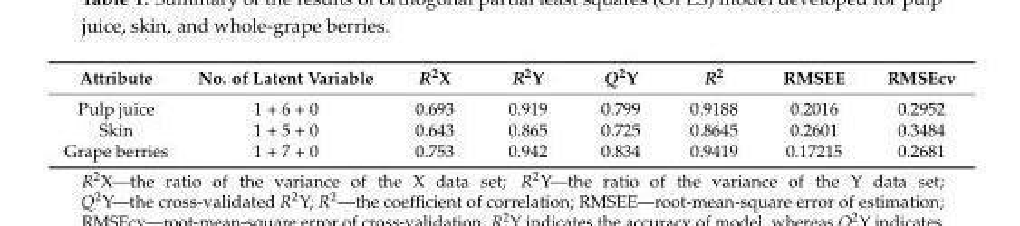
<table><thead><tr><td>Attribute</td><td>No. of Latent Variable</td><td>R<sup>2</sup>X</td><td>R<sup>2</sup>Y</td><td>Q<sup>2</sup>Y</td><td>R<sup>2</sup></td><td>RMSEE</td><td>RMSEcv</td></tr></thead><tbody><tr><td>Pulp juice</td><td>1 + 6 + 0</td><td>0.693</td><td>0.919</td><td>0.799</td><td>0.9188</td><td>0.2016</td><td>0.2952</td></tr><tr><td>Skin</td><td>1 + 5 + 0</td><td>0.643</td><td>0.865</td><td>0.725</td><td>0.8645</td><td>0.2601</td><td>0.3484</td></tr><tr><td>Grape berries</td><td>1 + 7 + 0</td><td>0.753</td><td>0.942</td><td>0.834</td><td>0.9419</td><td>0.17215</td><td>0.2681</td></tr></tbody></table>